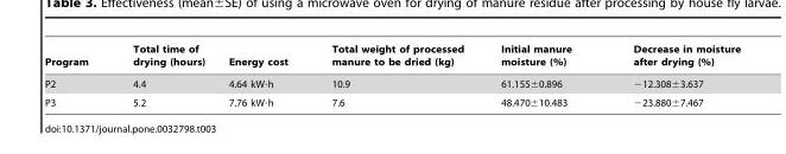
<table><thead><tr><td>Program</td><td>Total time of drying (hours)</td><td>Energy cost</td><td>Total weight of processed manure to be dried (kg)</td><td>Initial manure moisture (%)</td><td>Decrease in moisture after drying (%)</td></tr></thead><tbody><tr><td>P2</td><td>4.4</td><td>4.64 kW·h</td><td>10.9</td><td>61.155±0.896</td><td>−12.308±3.637</td></tr><tr><td>P3</td><td>5.2</td><td>7.76 kW·h</td><td>7.6</td><td>48.470±10.483</td><td>−23.880±7.467</td></tr></tbody></table>